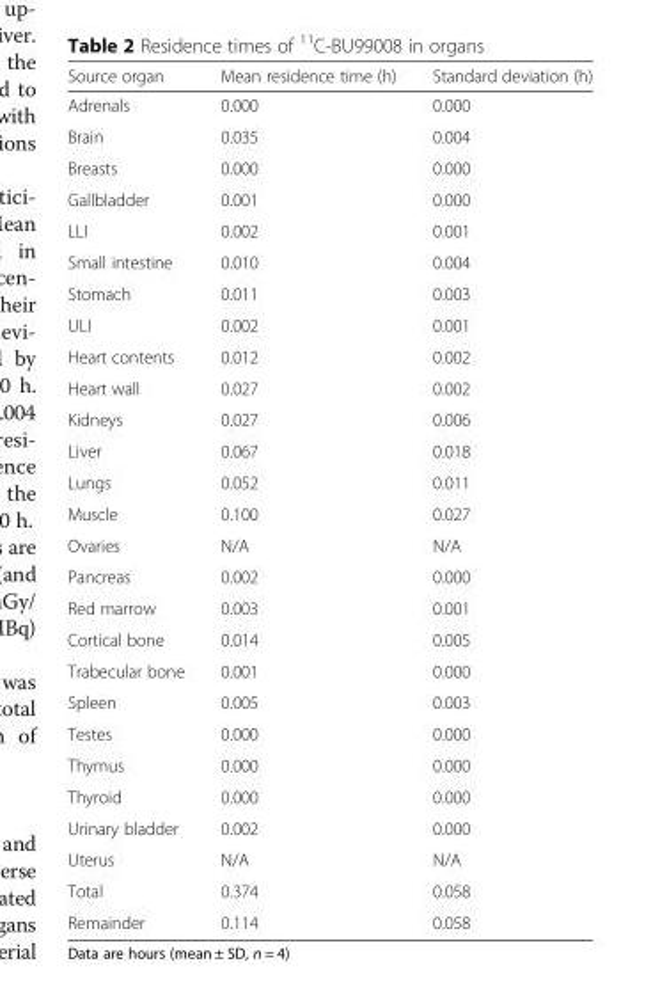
<table><thead><tr><td>Source organ</td><td>Mean residence time (h)</td><td>Standard deviation (h)</td></tr></thead><tbody><tr><td>Adrenals</td><td>0.000</td><td>0.000</td></tr><tr><td>Brain</td><td>0.035</td><td>0.004</td></tr><tr><td>Breasts</td><td>0.000</td><td>0.000</td></tr><tr><td>Gallbladder</td><td>0.001</td><td>0.000</td></tr><tr><td>LLI</td><td>0.002</td><td>0.001</td></tr><tr><td>Small intestine</td><td>0.010</td><td>0.004</td></tr><tr><td>Stomach</td><td>0.011</td><td>0.003</td></tr><tr><td>ULI</td><td>0.002</td><td>0.001</td></tr><tr><td>Heart contents</td><td>0.012</td><td>0.002</td></tr><tr><td>Heart wall</td><td>0.027</td><td>0.002</td></tr><tr><td>Kidneys</td><td>0.027</td><td>0.006</td></tr><tr><td>Liver</td><td>0.067</td><td>0.018</td></tr><tr><td>Lungs</td><td>0.052</td><td>0.011</td></tr><tr><td>Muscle</td><td>0.100</td><td>0.027</td></tr><tr><td>Ovaries</td><td>N/A</td><td>N/A</td></tr><tr><td>Pancreas</td><td>0.002</td><td>0.000</td></tr><tr><td>Red marrow</td><td>0.003</td><td>0.001</td></tr><tr><td>Cortical bone</td><td>0.014</td><td>0.005</td></tr><tr><td>Trabecular bone</td><td>0.001</td><td>0.000</td></tr><tr><td>Spleen</td><td>0.005</td><td>0.003</td></tr><tr><td>Testes</td><td>0.000</td><td>0.000</td></tr><tr><td>Thymus</td><td>0.000</td><td>0.000</td></tr><tr><td>Thyroid</td><td>0.000</td><td>0.000</td></tr><tr><td>Urinary bladder</td><td>0.002</td><td>0.000</td></tr><tr><td>Uterus</td><td>N/A</td><td>N/A</td></tr><tr><td>Total</td><td>0.374</td><td>0.058</td></tr><tr><td>Remainder</td><td>0.114</td><td>0.058</td></tr></tbody></table>